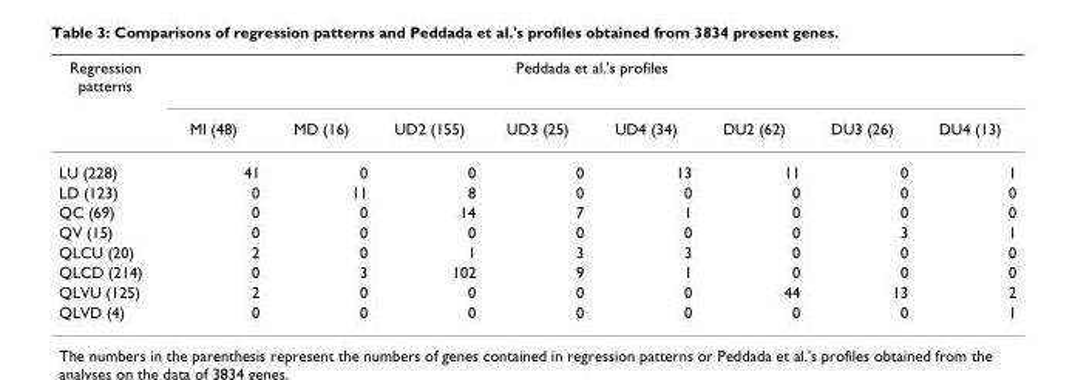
<table><thead><tr><td rowspan="2">Regression patterns</td><td colspan="8">Peddada et al.&#x27;s profiles</td></tr><tr><td>MI (48)</td><td>MD (16)</td><td>UD2 (155)</td><td>UD3 (25)</td><td>UD4 (34)</td><td>DU2 (62)</td><td>DU3 (26)</td><td>DU4 (13)</td></tr></thead><tbody><tr><td>LU (228)</td><td>41</td><td>0</td><td>0</td><td>0</td><td>13</td><td>11</td><td>0</td><td>1</td></tr><tr><td>LD (123)</td><td>0</td><td>11</td><td>8</td><td>0</td><td>0</td><td>0</td><td>0</td><td>0</td></tr><tr><td>QC (69)</td><td>0</td><td>0</td><td>14</td><td>7</td><td>1</td><td>0</td><td>0</td><td>0</td></tr><tr><td>QV (15)</td><td>0</td><td>0</td><td>0</td><td>0</td><td>0</td><td>0</td><td>3</td><td>1</td></tr><tr><td>QLCU (20)</td><td>2</td><td>0</td><td>1</td><td>3</td><td>3</td><td>0</td><td>0</td><td>0</td></tr><tr><td>QLCD (214)</td><td>0</td><td>3</td><td>102</td><td>9</td><td>1</td><td>0</td><td>0</td><td>0</td></tr><tr><td>QLVU (125)</td><td>2</td><td>0</td><td>0</td><td>0</td><td>0</td><td>44</td><td>13</td><td>2</td></tr><tr><td>QLVD (4)</td><td>0</td><td>0</td><td>0</td><td>0</td><td>0</td><td>0</td><td>0</td><td>1</td></tr></tbody></table>